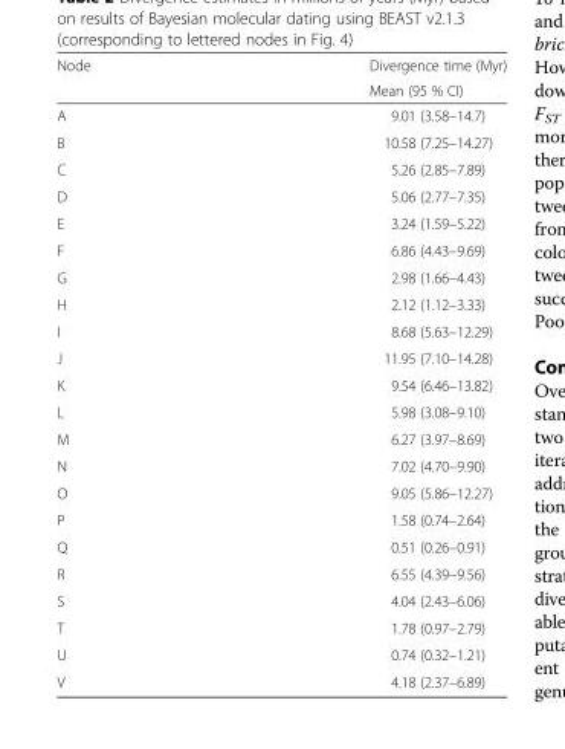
<table><thead><tr><td rowspan="2">Node</td><td rowspan="2">Divergence time (Myr) Mean (95 % CI)</td></tr><tr></tr></thead><tbody><tr><td>A</td><td>9.01 (3.58–14.7)</td></tr><tr><td>B</td><td>10.58 (7.25–14.27)</td></tr><tr><td>C</td><td>5.26 (2.85–7.89)</td></tr><tr><td>D</td><td>5.06 (2.77–7.35)</td></tr><tr><td>E</td><td>3.24 (1.59–5.22)</td></tr><tr><td>F</td><td>6.86 (4.43–9.69)</td></tr><tr><td>G</td><td>2.98 (1.66–4.43)</td></tr><tr><td>H</td><td>2.12 (1.12–3.33)</td></tr><tr><td>I</td><td>8.68 (5.63–12.29)</td></tr><tr><td>J</td><td>11.95 (7.10–14.28)</td></tr><tr><td>K</td><td>9.54 (6.46–13.82)</td></tr><tr><td>L</td><td>5.98 (3.08–9.10)</td></tr><tr><td>M</td><td>6.27 (3.97–8.69)</td></tr><tr><td>N</td><td>7.02 (4.70–9.90)</td></tr><tr><td>O</td><td>9.05 (5.86–12.27)</td></tr><tr><td>P</td><td>1.58 (0.74–2.64)</td></tr><tr><td>Q</td><td>0.51 (0.26–0.91)</td></tr><tr><td>R</td><td>6.55 (4.39–9.56)</td></tr><tr><td>S</td><td>4.04 (2.43–6.06)</td></tr><tr><td>T</td><td>1.78 (0.97–2.79)</td></tr><tr><td>U</td><td>0.74 (0.32–1.21)</td></tr><tr><td>V</td><td>4.18 (2.37–6.89)</td></tr></tbody></table>